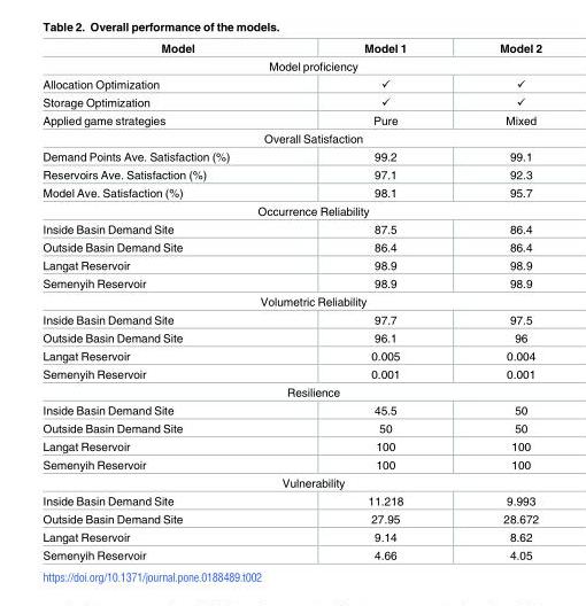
<table><thead><tr><td>Model</td><td>Model 1</td><td>Model 2</td></tr></thead><tbody><tr><td colspan="3">Model proficiency</td></tr><tr><td>Allocation Optimization</td><td>✓</td><td>✓</td></tr><tr><td>Storage Optimization</td><td>✓</td><td>✓</td></tr><tr><td>Applied game strategies</td><td>Pure</td><td>Mixed</td></tr><tr><td colspan="3">Overall Satisfaction</td></tr><tr><td>Demand Points Ave. Satisfaction (%)</td><td>99.2</td><td>99.1</td></tr><tr><td>Reservoirs Ave. Satisfaction (%)</td><td>97.1</td><td>92.3</td></tr><tr><td>Model Ave. Satisfaction (%)</td><td>98.1</td><td>95.7</td></tr><tr><td colspan="3">Occurrence Reliability</td></tr><tr><td>Inside Basin Demand Site</td><td>87.5</td><td>86.4</td></tr><tr><td>Outside Basin Demand Site</td><td>86.4</td><td>86.4</td></tr><tr><td>Langat Reservoir</td><td>98.9</td><td>98.9</td></tr><tr><td>Semenyih Reservoir</td><td>98.9</td><td>98.9</td></tr><tr><td colspan="3">Volumetric Reliability</td></tr><tr><td>Inside Basin Demand Site</td><td>97.7</td><td>97.5</td></tr><tr><td>Outside Basin Demand Site</td><td>96.1</td><td>96</td></tr><tr><td>Langat Reservoir</td><td>0.005</td><td>0.004</td></tr><tr><td>Semenyih Reservoir</td><td>0.001</td><td>0.001</td></tr><tr><td colspan="3">Resilience</td></tr><tr><td>Inside Basin Demand Site</td><td>45.5</td><td>50</td></tr><tr><td>Outside Basin Demand Site</td><td>50</td><td>50</td></tr><tr><td>Langat Reservoir</td><td>100</td><td>100</td></tr><tr><td>Semenyih Reservoir</td><td>100</td><td>100</td></tr><tr><td colspan="3">Vulnerability</td></tr><tr><td>Inside Basin Demand Site</td><td>11.218</td><td>9.993</td></tr><tr><td>Outside Basin Demand Site</td><td>27.95</td><td>28.672</td></tr><tr><td>Langat Reservoir</td><td>9.14</td><td>8.62</td></tr><tr><td>Semenyih Reservoir</td><td>4.66</td><td>4.05</td></tr></tbody></table>